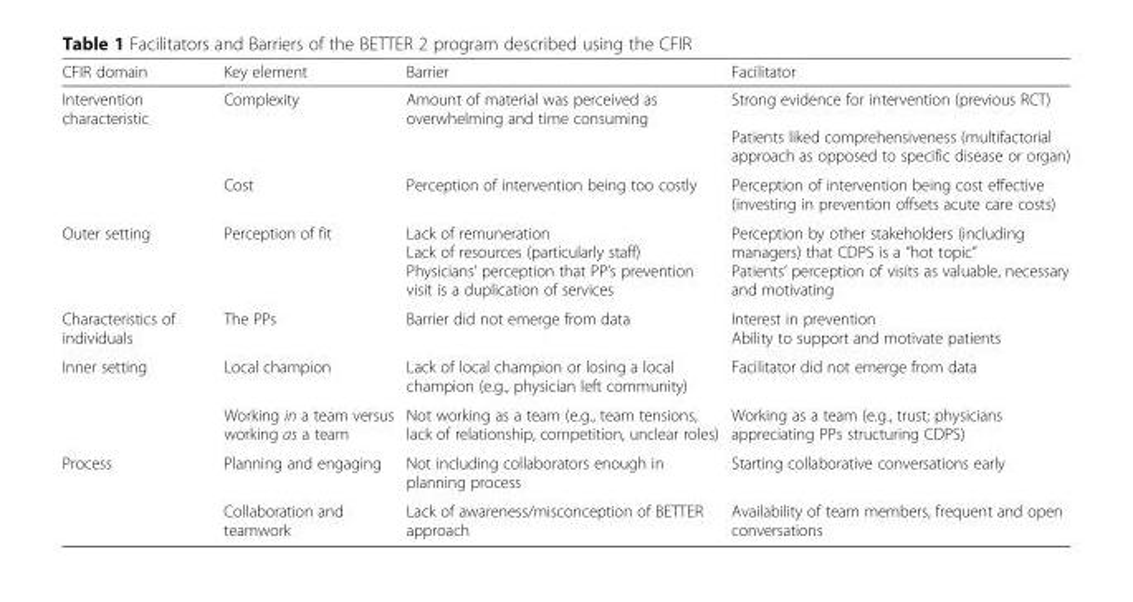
<table><thead><tr><td>CFIR domain</td><td>Key element</td><td>Barrier</td><td>Facilitator</td></tr></thead><tbody><tr><td rowspan="2">Intervention characteristic</td><td>Complexity</td><td>Amount of material was perceived as overwhelming and time consuming</td><td>Strong evidence for intervention (previous RCT) Patients liked comprehensiveness (multifactorial approach as opposed to specific disease or organ)</td></tr><tr><td>Cost</td><td>Perception of intervention being too costly</td><td>Perception of intervention being cost effective (investing in prevention offsets acute care costs)</td></tr><tr><td>Outer setting</td><td>Perception of fit</td><td>Lack of remuneration Lack of resources (particularly staff) Physicians’ perception that PP’s prevention visit is a duplication of services</td><td>Perception by other stakeholders (including managers) that CDPS is a “hot topic” Patients’ perception of visits as valuable, necessary and motivating</td></tr><tr><td>Characteristics of individuals</td><td>The PPs</td><td>Barrier did not emerge from data</td><td>Interest in prevention Ability to support and motivate patients</td></tr><tr><td rowspan="2">Inner setting</td><td>Local champion</td><td>Lack of local champion or losing a local champion (e.g., physician left community)</td><td>Facilitator did not emerge from data</td></tr><tr><td>Working in a team versus working as a team</td><td>Not working as a team (e.g., team tensions, lack of relationship, competition, unclear roles)</td><td>Working as a team (e.g., trust; physicians appreciating PPs structuring CDPS)</td></tr><tr><td rowspan="2">Process</td><td>Planning and engaging</td><td>Not including collaborators enough in planning process</td><td>Starting collaborative conversations early</td></tr><tr><td>Collaboration and teamwork</td><td>Lack of awareness/misconception of BETTER approach</td><td>Availability of team members, frequent and open conversations</td></tr></tbody></table>